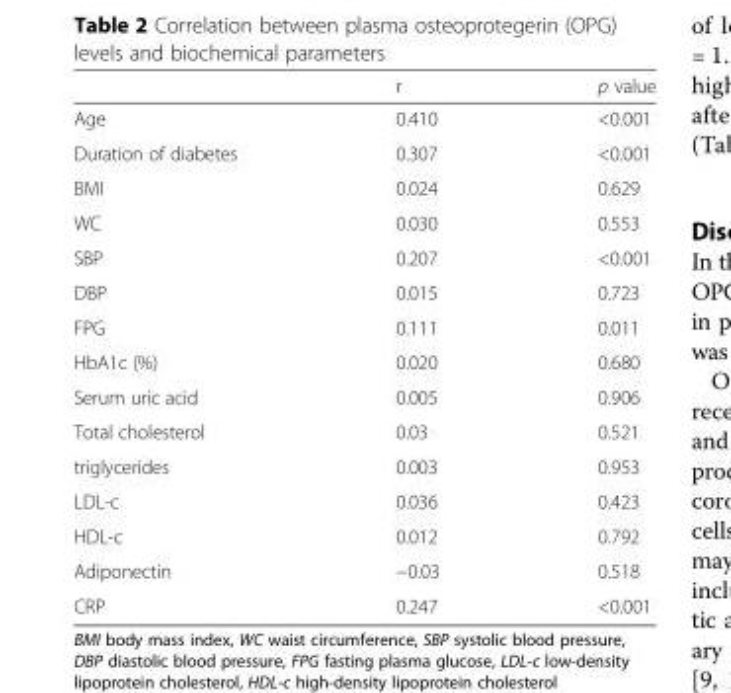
<table><thead><tr><td></td><td>r</td><td>p value</td></tr></thead><tbody><tr><td>Age</td><td>0.410</td><td>&lt;0.001</td></tr><tr><td>Duration of diabetes</td><td>0.307</td><td>&lt;0.001</td></tr><tr><td>BMI</td><td>0.024</td><td>0.629</td></tr><tr><td>WC</td><td>0.030</td><td>0.553</td></tr><tr><td>SBP</td><td>0.207</td><td>&lt;0.001</td></tr><tr><td>DBP</td><td>0.015</td><td>0.723</td></tr><tr><td>FPG</td><td>0.111</td><td>0.011</td></tr><tr><td>HbA1c (%)</td><td>0.020</td><td>0.680</td></tr><tr><td>Serum uric acid</td><td>0.005</td><td>0.906</td></tr><tr><td>Total cholesterol</td><td>0.03</td><td>0.521</td></tr><tr><td>triglycerides</td><td>0.003</td><td>0.953</td></tr><tr><td>LDL-c</td><td>0.036</td><td>0.423</td></tr><tr><td>HDL-c</td><td>0.012</td><td>0.792</td></tr><tr><td>Adiponectin</td><td>−0.03</td><td>0.518</td></tr><tr><td>CRP</td><td>0.247</td><td>&lt;0.001</td></tr></tbody></table>